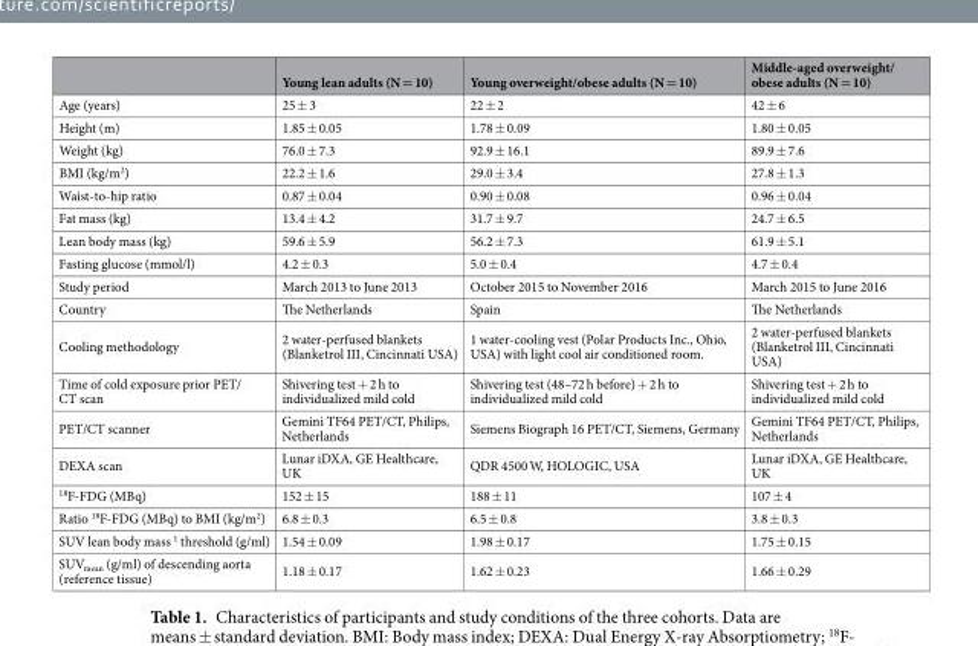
<table><thead><tr><td></td><td>Young lean adults (N = 10)</td><td>Young overweight/obese adults (N = 10)</td><td>Middle-aged overweight/ obese adults (N = 10)</td></tr></thead><tbody><tr><td>Age (years)</td><td>25 ± 3</td><td>22 ± 2</td><td>42 ± 6</td></tr><tr><td>Height (m)</td><td>1.85 ± 0.05</td><td>1.78 ± 0.09</td><td>1.80 ± 0.05</td></tr><tr><td>Weight (kg)</td><td>76.0 ± 7.3</td><td>92.9 ± 16.1</td><td>89.9 ± 7.6</td></tr><tr><td>BMI (kg/m<sup>2</sup>)</td><td>22.2 ± 1.6</td><td>29.0 ± 3.4</td><td>27.8 ± 1.3</td></tr><tr><td>Waist-to-hip ratio</td><td>0.87 ± 0.04</td><td>0.90 ± 0.08</td><td>0.96 ± 0.04</td></tr><tr><td>Fat mass (kg)</td><td>13.4 ± 4.2</td><td>31.7 ± 9.7</td><td>24.7 ± 6.5</td></tr><tr><td>Lean body mass (kg)</td><td>59.6 ± 5.9</td><td>56.2 ± 7.3</td><td>61.9 ± 5.1</td></tr><tr><td>Fasting glucose (mmol/l)</td><td>4.2 ± 0.3</td><td>5.0 ± 0.4</td><td>4.7 ± 0.4</td></tr><tr><td>Study period</td><td>March 2013 to June 2013</td><td>October 2015 to November 2016</td><td>March 2015 to June 2016</td></tr><tr><td>Country</td><td>The Netherlands</td><td>Spain</td><td>The Netherlands</td></tr><tr><td>Cooling methodology</td><td>2 water-perfused blankets (Blanketrol III, Cincinnati USA)</td><td>1 water-cooling vest (Polar Products Inc., Ohio, USA) with light cool air conditioned room.</td><td>2 water-perfused blankets (Blanketrol III, Cincinnati USA)</td></tr><tr><td>Time of cold exposure prior PET/ CT scan</td><td>Shivering test + 2 h to individualized mild cold</td><td>Shivering test (48–72 h before) + 2 h to individualized mild cold</td><td>Shivering test + 2 h to individualized mild cold</td></tr><tr><td>PET/CT scanner</td><td>Gemini TF64 PET/CT, Philips, Netherlands</td><td>Siemens Biograph 16 PET/CT, Siemens, Germany</td><td>Gemini TF64 PET/CT, Philips, Netherlands</td></tr><tr><td>DEXA scan</td><td>Lunar iDXA, GE Healthcare, UK</td><td>QDR 4500 W, HOLOGIC, USA</td><td>Lunar iDXA, GE Healthcare, UK</td></tr><tr><td><sup>18</sup>F-FDG (MBq)</td><td>152 ± 15</td><td>188 ± 11</td><td>107 ± 4</td></tr><tr><td>Ratio <sup>18</sup>F-FDG (MBq) to BMI (kg/m<sup>2</sup>)</td><td>6.8 ± 0.3</td><td>6.5 ± 0.8</td><td>3.8 ± 0.3</td></tr><tr><td>SUV lean body mass <sup>1</sup> threshold (g/ml)</td><td>1.54 ± 0.09</td><td>1.98 ± 0.17</td><td>1.75 ± 0.15</td></tr><tr><td>SUV<sub>mean</sub> (g/ml) of descending aorta (reference tissue)</td><td>1.18 ± 0.17</td><td>1.62 ± 0.23</td><td>1.66 ± 0.29</td></tr></tbody></table>